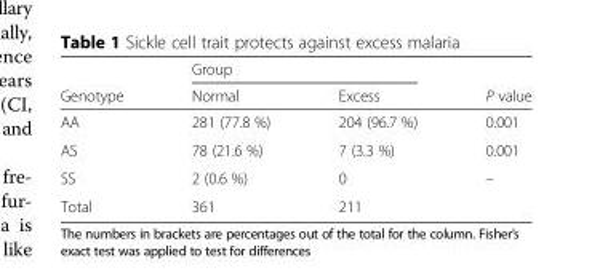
<table><thead><tr><td rowspan="2">Genotype</td><td colspan="2">Group</td><td rowspan="2">P value</td></tr><tr><td>Normal</td><td>Excess</td></tr></thead><tbody><tr><td>AA</td><td>281 (77.8 %)</td><td>204 (96.7 %)</td><td>0.001</td></tr><tr><td>AS</td><td>78 (21.6 %)</td><td>7 (3.3 %)</td><td>0.001</td></tr><tr><td>SS</td><td>2 (0.6 %)</td><td>0</td><td>–</td></tr><tr><td>Total</td><td>361</td><td>211</td><td></td></tr></tbody></table>